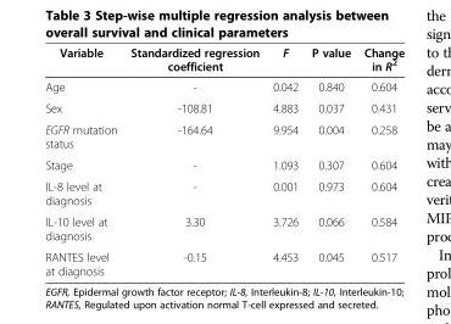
<table><thead><tr><td>Variable</td><td>Standardized regression coefficient</td><td>F</td><td>P value</td><td>Change in R<sup>2</sup></td></tr></thead><tbody><tr><td>Age</td><td>-</td><td>0.042</td><td>0.840</td><td>0.604</td></tr><tr><td>Sex</td><td>-108.81</td><td>4.883</td><td>0.037</td><td>0.431</td></tr><tr><td>EGFR mutation status</td><td>-164.64</td><td>9.954</td><td>0.004</td><td>0.258</td></tr><tr><td>Stage</td><td>-</td><td>1.093</td><td>0.307</td><td>0.604</td></tr><tr><td>IL-8 level at diagnosis</td><td>-</td><td>0.001</td><td>0.973</td><td>0.604</td></tr><tr><td>IL-10 level at diagnosis</td><td>3.30</td><td>3.726</td><td>0.066</td><td>0.584</td></tr><tr><td>RANTES level at diagnosis</td><td>-0.15</td><td>4.453</td><td>0.045</td><td>0.517</td></tr></tbody></table>